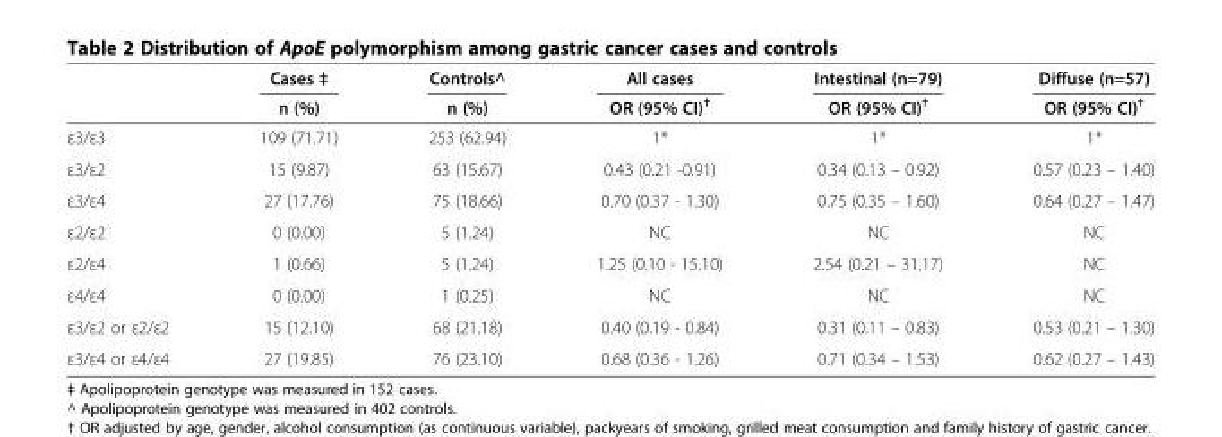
<table><thead><tr><td rowspan="2"></td><td rowspan="2">Cases ‡ n (%)</td><td rowspan="2">Controls^ n (%)</td><td rowspan="2">All cases OR (95% CI)<sup>†</sup></td><td rowspan="2">Intestinal (n=79) OR (95% CI)<sup>†</sup></td><td rowspan="2">Diffuse (n=57) OR (95% CI)<sup>†</sup></td></tr><tr></tr></thead><tbody><tr><td>ε3/ε3</td><td>109 (71.71)</td><td>253 (62.94)</td><td>1*</td><td>1*</td><td>1*</td></tr><tr><td>ε3/ε2</td><td>15 (9.87)</td><td>63 (15.67)</td><td>0.43 (0.21 -0.91)</td><td>0.34 (0.13 – 0.92)</td><td>0.57 (0.23 – 1.40)</td></tr><tr><td>ε3/ε4</td><td>27 (17.76)</td><td>75 (18.66)</td><td>0.70 (0.37 - 1.30)</td><td>0.75 (0.35 – 1.60)</td><td>0.64 (0.27 – 1.47)</td></tr><tr><td>ε2/ε2</td><td>0 (0.00)</td><td>5 (1.24)</td><td>NC</td><td>NC</td><td>NC</td></tr><tr><td>ε2/ε4</td><td>1 (0.66)</td><td>5 (1.24)</td><td>1.25 (0.10 - 15.10)</td><td>2.54 (0.21 – 31.17)</td><td>NC</td></tr><tr><td>ε4/ε4</td><td>0 (0.00)</td><td>1 (0.25)</td><td>NC</td><td>NC</td><td>NC</td></tr><tr><td>ε3/ε2 or ε2/ε2</td><td>15 (12.10)</td><td>68 (21.18)</td><td>0.40 (0.19 - 0.84)</td><td>0.31 (0.11 – 0.83)</td><td>0.53 (0.21 – 1.30)</td></tr><tr><td>ε3/ε4 or ε4/ε4</td><td>27 (19.85)</td><td>76 (23.10)</td><td>0.68 (0.36 - 1.26)</td><td>0.71 (0.34 – 1.53)</td><td>0.62 (0.27 – 1.43)</td></tr></tbody></table>